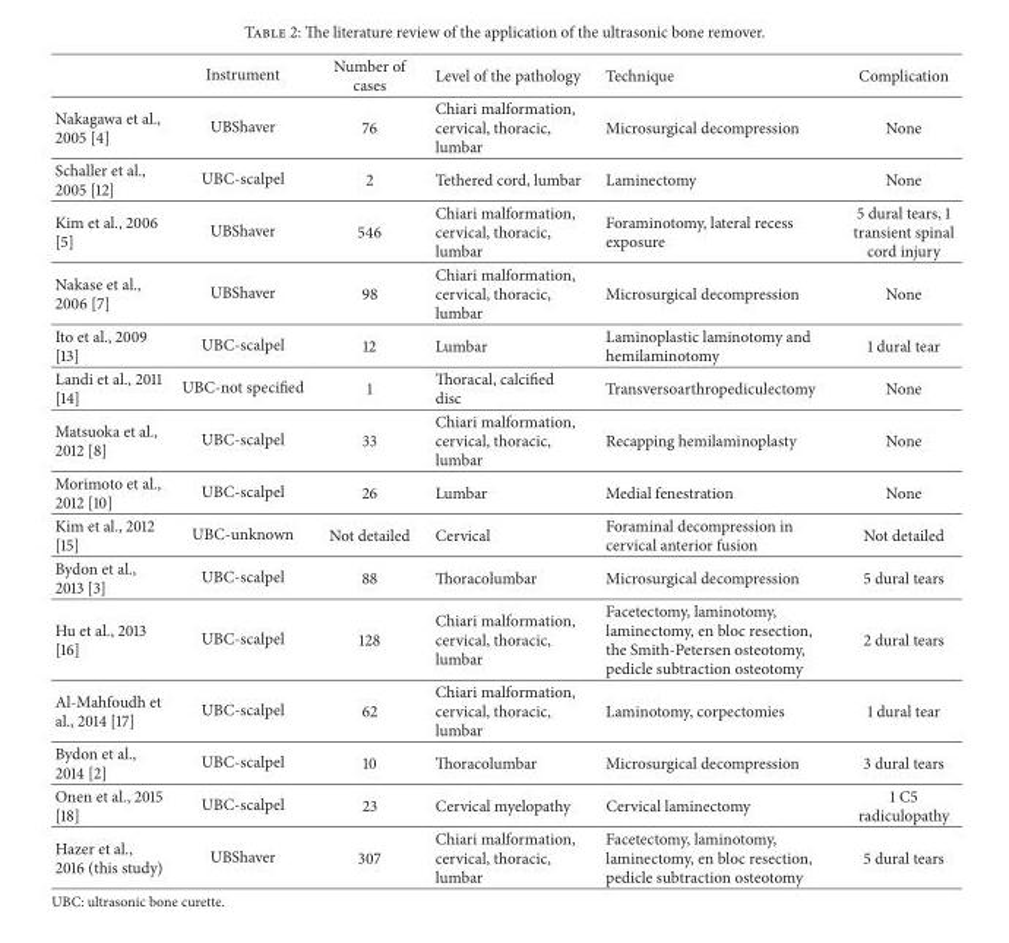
<table><thead><tr><td></td><td>Instrument</td><td>Number of cases</td><td>Level of the pathology</td><td>Technique</td><td>Complication</td></tr></thead><tbody><tr><td>Nakagawa et al., 2005 [4]</td><td>UBShaver</td><td>76</td><td>Chiari malformation, cervical, thoracic, lumbar</td><td>Microsurgical decompression</td><td>None</td></tr><tr><td>Schaller et al., 2005 [12]</td><td>UBC-scalpel</td><td>2</td><td>Tethered cord, lumbar</td><td>Laminectomy</td><td>None</td></tr><tr><td>Kim et al., 2006 [5]</td><td>UBShaver</td><td>546</td><td>Chiari malformation, cervical, thoracic, lumbar</td><td>Foraminotomy, lateral recess exposure</td><td>5 dural tears, 1 transient spinal cord injury</td></tr><tr><td>Nakase et al., 2006 [7]</td><td>UBShaver</td><td>98</td><td>Chiari malformation, cervical, thoracic, lumbar</td><td>Microsurgical decompression</td><td>None</td></tr><tr><td>Ito et al., 2009 [13]</td><td>UBC-scalpel</td><td>12</td><td>Lumbar</td><td>Laminoplastic laminotomy and hemilaminotomy</td><td>1 dural tear</td></tr><tr><td>Landi et al., 2011 [14]</td><td>UBC-not specified</td><td>1</td><td>Thoracal, calcified disc</td><td>Transversoarthropediculectomy</td><td>None</td></tr><tr><td>Matsuoka et al., 2012 [8]</td><td>UBC-scalpel</td><td>33</td><td>Chiari malformation, cervical, thoracic, lumbar</td><td>Recapping hemilaminoplasty</td><td>None</td></tr><tr><td>Morimoto et al., 2012 [10]</td><td>UBC-scalpel</td><td>26</td><td>Lumbar</td><td>Medial fenestration</td><td>None</td></tr><tr><td>Kim et al., 2012 [15]</td><td>UBC-unknown</td><td>Not detailed</td><td>Cervical</td><td>Foraminal decompression in cervical anterior fusion</td><td>Not detailed</td></tr><tr><td>Bydon et al., 2013 [3]</td><td>UBC-scalpel</td><td>88</td><td>Thoracolumbar</td><td>Microsurgical decompression</td><td>5 dural tears</td></tr><tr><td>Hu et al., 2013 [16]</td><td>UBC-scalpel</td><td>128</td><td>Chiari malformation, cervical, thoracic, lumbar</td><td>Facetectomy, laminotomy, laminectomy, en bloc resection, the Smith-Petersen osteotomy, pedicle subtraction osteotomy</td><td>2 dural tears</td></tr><tr><td>Al-Mahfoudh et al., 2014 [17]</td><td>UBC-scalpel</td><td>62</td><td>Chiari malformation, cervical, thoracic, lumbar</td><td>Laminotomy, corpectomies</td><td>1 dural tear</td></tr><tr><td>Bydon et al., 2014 [2]</td><td>UBC-scalpel</td><td>10</td><td>Thoracolumbar</td><td>Microsurgical decompression</td><td>3 dural tears</td></tr><tr><td>Onen et al., 2015 [18]</td><td>UBC-scalpel</td><td>23</td><td>Cervical myelopathy</td><td>Cervical laminectomy</td><td>1 C5 radiculopathy</td></tr><tr><td>Hazer et al., 2016 (this study)</td><td>UBShaver</td><td>307</td><td>Chiari malformation, cervical, thoracic, lumbar</td><td>Facetectomy, laminotomy, laminectomy, en bloc resection, pedicle subtraction osteotomy</td><td>5 dural tears</td></tr></tbody></table>